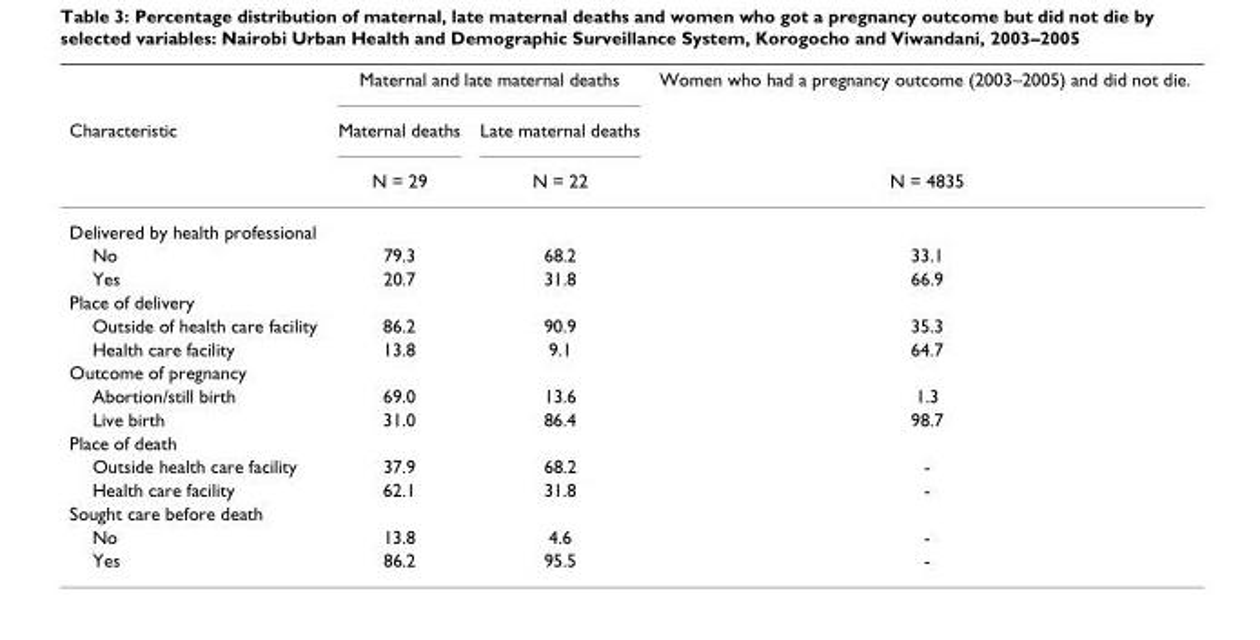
<table><thead><tr><td rowspan="3">Characteristic</td><td colspan="2">Maternal and late maternal deaths</td><td rowspan="3">Women who had a pregnancy outcome (2003–2005) and did not die. N = 4835</td></tr><tr><td rowspan="2">Maternal deaths N = 29</td><td rowspan="2">Late maternal deaths N = 22</td></tr><tr></tr></thead><tbody><tr><td colspan="4">Delivered by health professional</td></tr><tr><td>No</td><td>79.3</td><td>68.2</td><td>33.1</td></tr><tr><td>Yes</td><td>20.7</td><td>31.8</td><td>66.9</td></tr><tr><td colspan="4">Place of delivery</td></tr><tr><td>Outside of health care facility</td><td>86.2</td><td>90.9</td><td>35.3</td></tr><tr><td>Health care facility</td><td>13.8</td><td>9.1</td><td>64.7</td></tr><tr><td colspan="4">Outcome of pregnancy</td></tr><tr><td>Abortion/still birth</td><td>69.0</td><td>13.6</td><td>1.3</td></tr><tr><td>Live birth</td><td>31.0</td><td>86.4</td><td>98.7</td></tr><tr><td colspan="4">Place of death</td></tr><tr><td>Outside health care facility</td><td>37.9</td><td>68.2</td><td>-</td></tr><tr><td>Health care facility</td><td>62.1</td><td>31.8</td><td>-</td></tr><tr><td colspan="4">Sought care before death</td></tr><tr><td>No</td><td>13.8</td><td>4.6</td><td>-</td></tr><tr><td>Yes</td><td>86.2</td><td>95.5</td><td>-</td></tr></tbody></table>